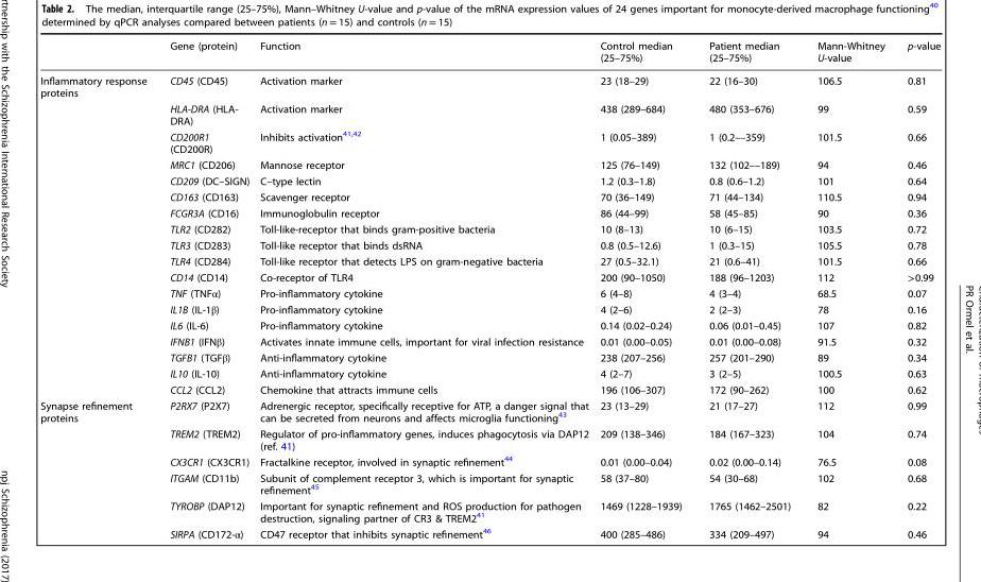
<table><thead><tr><td></td><td>Gene (protein)</td><td>Function</td><td>Control median (25–75%)</td><td>Patient median (25–75%)</td><td>Mann-Whitney U-value</td><td>p-value</td></tr></thead><tbody><tr><td rowspan="18">Inflammatory response proteins</td><td>CD45 (CD45)</td><td>Activation marker</td><td>23 (18–29)</td><td>22 (16–30)</td><td>106.5</td><td>0.81</td></tr><tr><td>HLA-DRA (HLA- DRA)</td><td>Activation marker</td><td>438 (289–684)</td><td>480 (353–676)</td><td>99</td><td>0.59</td></tr><tr><td>CD200R1 (CD200R)</td><td>Inhibits activation<sup>41,42</sup></td><td>1 (0.05–389)</td><td>1 (0.2––359)</td><td>101.5</td><td>0.66</td></tr><tr><td>MRC1 (CD206)</td><td>Mannose receptor</td><td>125 (76–149)</td><td>132 (102––189)</td><td>94</td><td>0.46</td></tr><tr><td>CD209 (DC–SIGN)</td><td>C–type lectin</td><td>1.2 (0.3–1.8)</td><td>0.8 (0.6–1.2)</td><td>101</td><td>0.64</td></tr><tr><td>CD163 (CD163)</td><td>Scavenger receptor</td><td>70 (36–149)</td><td>71 (44–134)</td><td>110.5</td><td>0.94</td></tr><tr><td>FCGR3A (CD16)</td><td>Immunoglobulin receptor</td><td>86 (44–99)</td><td>58 (45–85)</td><td>90</td><td>0.36</td></tr><tr><td>TLR2 (CD282)</td><td>Toll-like-receptor that binds gram-positive bacteria</td><td>10 (8–13)</td><td>10 (6–15)</td><td>103.5</td><td>0.72</td></tr><tr><td>TLR3 (CD283)</td><td>Toll-like receptor that binds dsRNA</td><td>0.8 (0.5–12.6)</td><td>1 (0.3–15)</td><td>105.5</td><td>0.78</td></tr><tr><td>TLR4 (CD284)</td><td>Toll-like receptor that detects LPS on gram-negative bacteria</td><td>27 (0.5–32.1)</td><td>21 (0.6–41)</td><td>101.5</td><td>0.66</td></tr><tr><td>CD14 (CD14)</td><td>Co-receptor of TLR4</td><td>200 (90–1050)</td><td>188 (96–1203)</td><td>112</td><td>&gt;0.99</td></tr><tr><td>TNF (TNFα)</td><td>Pro-inflammatory cytokine</td><td>6 (4–8)</td><td>4 (3–4)</td><td>68.5</td><td>0.07</td></tr><tr><td>IL1B (IL-1β)</td><td>Pro-inflammatory cytokine</td><td>4 (2–6)</td><td>2 (2–3)</td><td>78</td><td>0.16</td></tr><tr><td>IL6 (IL-6)</td><td>Pro-inflammatory cytokine</td><td>0.14 (0.02–0.24)</td><td>0.06 (0.01–0.45)</td><td>107</td><td>0.82</td></tr><tr><td>IFNB1 (IFNβ)</td><td>Activates innate immune cells, important for viral infection resistance</td><td>0.01 (0.00–0.05)</td><td>0.01 (0.00–0.08)</td><td>91.5</td><td>0.32</td></tr><tr><td>TGFB1 (TGFβ)</td><td>Anti-inflammatory cytokine</td><td>238 (207–256)</td><td>257 (201–290)</td><td>89</td><td>0.34</td></tr><tr><td>IL10 (IL-10)</td><td>Anti-inflammatory cytokine</td><td>4 (2–7)</td><td>3 (2–5)</td><td>100.5</td><td>0.63</td></tr><tr><td>CCL2 (CCL2)</td><td>Chemokine that attracts immune cells</td><td>196 (106–307)</td><td>172 (90–262)</td><td>100</td><td>0.62</td></tr><tr><td rowspan="6">Synapse refinement proteins</td><td>P2RX7 (P2X7)</td><td>Adrenergic receptor, specifically receptive for ATP, a danger signal that can be secreted from neurons and affects microglia functioning<sup>43</sup></td><td>23 (13–29)</td><td>21 (17–27)</td><td>112</td><td>0.99</td></tr><tr><td>TREM2 (TREM2)</td><td>Regulator of pro-inflammatory genes, induces phagocytosis via DAP12 (ref. 41)</td><td>209 (138–346)</td><td>184 (167–323)</td><td>104</td><td>0.74</td></tr><tr><td>CX3CR1 (CX3CR1)</td><td>Fractalkine receptor, involved in synaptic refinement<sup>44</sup></td><td>0.01 (0.00–0.04)</td><td>0.02 (0.00–0.14)</td><td>76.5</td><td>0.08</td></tr><tr><td>ITGAM (CD11b)</td><td>Subunit of complement receptor 3, which is important for synaptic refinement<sup>45</sup></td><td>58 (37–80)</td><td>54 (30–68)</td><td>102</td><td>0.68</td></tr><tr><td>TYROBP (DAP12)</td><td>Important for synaptic refinement and ROS production for pathogen destruction, signaling partner of CR3 &amp; TREM2<sup>41</sup></td><td>1469 (1228–1939)</td><td>1765 (1462–2501)</td><td>82</td><td>0.22</td></tr><tr><td>SIRPA (CD172-α)</td><td>CD47 receptor that inhibits synaptic refinement<sup>46</sup></td><td>400 (285–486)</td><td>334 (209–497)</td><td>94</td><td>0.46</td></tr></tbody></table>